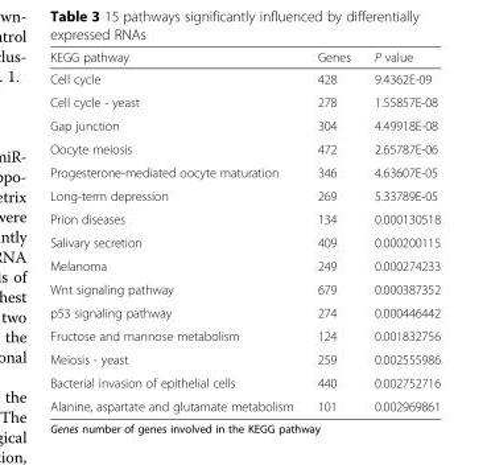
<table><thead><tr><td>KEGG pathway</td><td>Genes</td><td>P value</td></tr></thead><tbody><tr><td>Cell cycle</td><td>428</td><td>9.4362E-09</td></tr><tr><td>Cell cycle - yeast</td><td>278</td><td>1.55857E-08</td></tr><tr><td>Gap junction</td><td>304</td><td>4.49918E-08</td></tr><tr><td>Oocyte meiosis</td><td>472</td><td>2.65787E-06</td></tr><tr><td>Progesterone-mediated oocyte maturation</td><td>346</td><td>4.63607E-05</td></tr><tr><td>Long-term depression</td><td>269</td><td>5.33789E-05</td></tr><tr><td>Prion diseases</td><td>134</td><td>0.000130518</td></tr><tr><td>Salivary secretion</td><td>409</td><td>0.000200115</td></tr><tr><td>Melanoma</td><td>249</td><td>0.000274233</td></tr><tr><td>Wnt signaling pathway</td><td>679</td><td>0.000387352</td></tr><tr><td>p53 signaling pathway</td><td>274</td><td>0.000446442</td></tr><tr><td>Fructose and mannose metabolism</td><td>124</td><td>0.001832756</td></tr><tr><td>Meiosis - yeast</td><td>259</td><td>0.002555986</td></tr><tr><td>Bacterial invasion of epithelial cells</td><td>440</td><td>0.002752716</td></tr><tr><td>Alanine, aspartate and glutamate metabolism</td><td>101</td><td>0.002969861</td></tr></tbody></table>